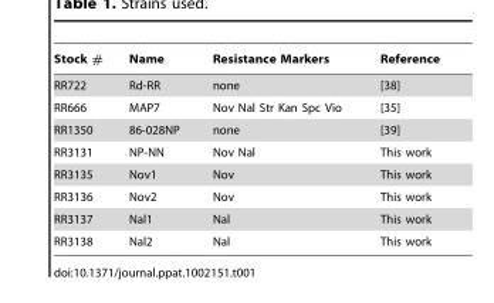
<table><thead><tr><td>Stock #</td><td>Name</td><td>Resistance Markers</td><td>Reference</td></tr></thead><tbody><tr><td>RR722</td><td>Rd-RR</td><td>none</td><td>[38]</td></tr><tr><td>RR666</td><td>MAP7</td><td>Nov Nal Str Kan Spc Vio</td><td>[35]</td></tr><tr><td>RR1350</td><td>86-028NP</td><td>none</td><td>[39]</td></tr><tr><td>RR3131</td><td>NP-NN</td><td>Nov Nal</td><td>This work</td></tr><tr><td>RR3135</td><td>Nov1</td><td>Nov</td><td>This work</td></tr><tr><td>RR3136</td><td>Nov2</td><td>Nov</td><td>This work</td></tr><tr><td>RR3137</td><td>Nal1</td><td>Nal</td><td>This work</td></tr><tr><td>RR3138</td><td>Nal2</td><td>Nal</td><td>This work</td></tr></tbody></table>